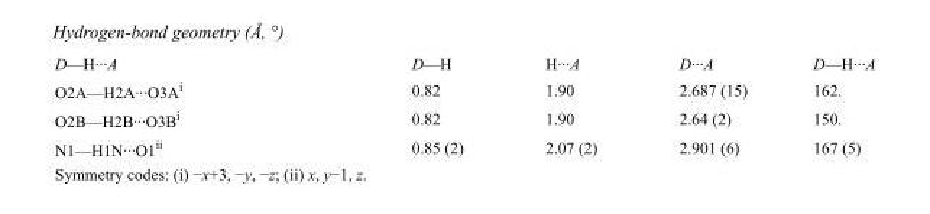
<table><tbody><tr><td>D—H···A</td><td>D—H</td><td>H···A</td><td>D···A</td><td>D—H···A</td></tr><tr><td>O2A—H2A···O3A<sup>i</sup></td><td>0.82</td><td>1.90</td><td>2.687 (15)</td><td>162.</td></tr><tr><td>O2B—H2B···O3B<sup>i</sup></td><td>0.82</td><td>1.90</td><td>2.64 (2)</td><td>150.</td></tr><tr><td>N1—H1N···O1<sup>ii</sup></td><td>0.85 (2)</td><td>2.07 (2)</td><td>2.901 (6)</td><td>167 (5)</td></tr></tbody></table>